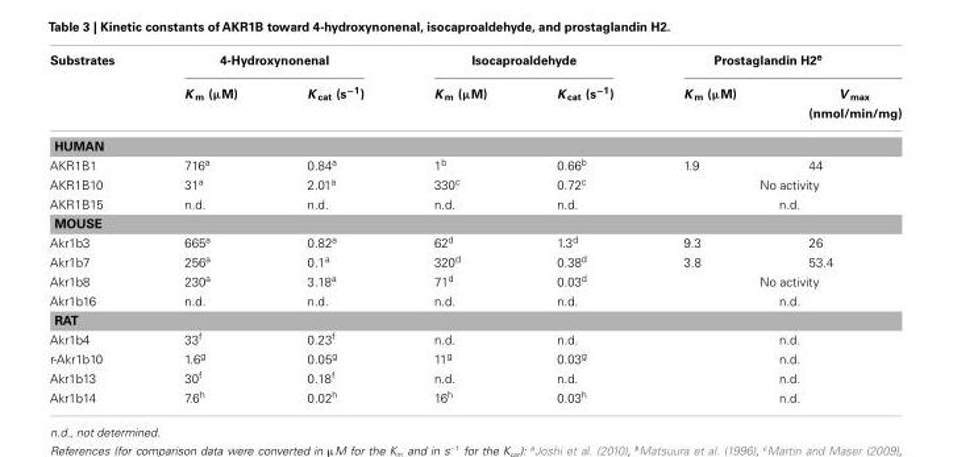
<table><thead><tr><td rowspan="2">Substrates</td><td colspan="2">4-Hydroxynonenal</td><td colspan="2">Isocaproaldehyde</td><td colspan="2">Prostaglandin H2<sup>e</sup></td></tr><tr><td>K <sub>m</sub> (µM)</td><td>K <sub>cat</sub> (s<sup>−1</sup>)</td><td>K <sub>m</sub> (µM)</td><td>K <sub>cat</sub> (s<sup>−1</sup>)</td><td>K <sub>m</sub> (µM)</td><td>V <sub>max</sub> (nmol/min/mg)</td></tr></thead><tbody><tr><td colspan="7">HUMAN</td></tr><tr><td>AKR1B1</td><td>716<sup>a</sup></td><td>0.84<sup>a</sup></td><td>1<sup>b</sup></td><td>0.66<sup>b</sup></td><td>1.9</td><td>44</td></tr><tr><td>AKR1B10</td><td>31<sup>a</sup></td><td>2.01<sup>a</sup></td><td>330<sup>c</sup></td><td>0.72<sup>c</sup></td><td colspan="2">No activity</td></tr><tr><td>AKR1B15</td><td>n.d.</td><td>n.d.</td><td>n.d.</td><td>n.d.</td><td colspan="2">n.d.</td></tr><tr><td colspan="7">MOUSE</td></tr><tr><td>Akr1b3</td><td>665<sup>a</sup></td><td>0.82<sup>a</sup></td><td>62<sup>d</sup></td><td>1.3<sup>d</sup></td><td>9.3</td><td>26</td></tr><tr><td>Akr1b7</td><td>256<sup>a</sup></td><td>0.1<sup>a</sup></td><td>320<sup>d</sup></td><td>0.38<sup>d</sup></td><td>3.8</td><td>53.4</td></tr><tr><td>Akr1b8</td><td>230<sup>a</sup></td><td>3.18<sup>a</sup></td><td>71<sup>d</sup></td><td>0.03<sup>d</sup></td><td colspan="2">No activity</td></tr><tr><td>Akr1b16</td><td>n.d.</td><td>n.d.</td><td>n.d.</td><td>n.d.</td><td colspan="2">n.d.</td></tr><tr><td colspan="7">RAT</td></tr><tr><td>Akr1b4</td><td>33<sup>f</sup></td><td>0.23<sup>f</sup></td><td>n.d.</td><td>n.d.</td><td colspan="2">n.d.</td></tr><tr><td>r-Akr1b10</td><td>1.6<sup>g</sup></td><td>0.05<sup>g</sup></td><td>11<sup>g</sup></td><td>0.03<sup>g</sup></td><td colspan="2">n.d.</td></tr><tr><td>Akr1b13</td><td>30<sup>f</sup></td><td>0.18<sup>f</sup></td><td>n.d.</td><td>n.d.</td><td colspan="2">n.d.</td></tr><tr><td>Akr1b14</td><td>7.6<sup>h</sup></td><td>0.02<sup>h</sup></td><td>16<sup>h</sup></td><td>0.03<sup>h</sup></td><td colspan="2">n.d.</td></tr></tbody></table>